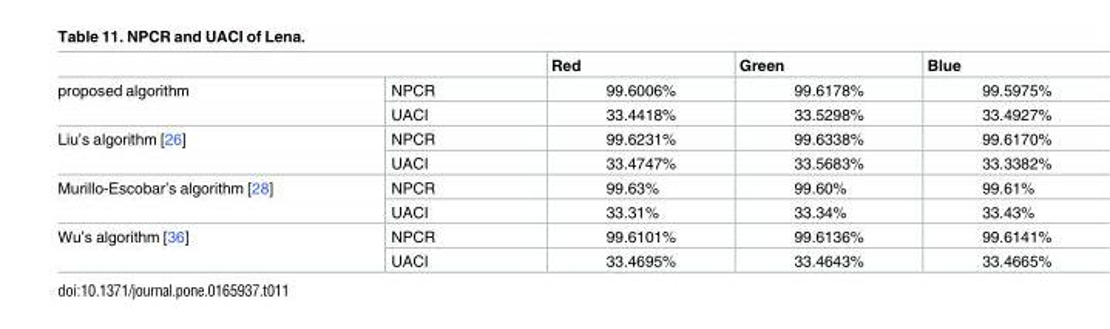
<table><thead><tr><td></td><td></td><td>Red</td><td>Green</td><td>Blue</td></tr></thead><tbody><tr><td rowspan="2">proposed algorithm</td><td>NPCR</td><td>99.6006%</td><td>99.6178%</td><td>99.5975%</td></tr><tr><td>UACI</td><td>33.4418%</td><td>33.5298%</td><td>33.4927%</td></tr><tr><td rowspan="2">Liu’s algorithm [26]</td><td>NPCR</td><td>99.6231%</td><td>99.6338%</td><td>99.6170%</td></tr><tr><td>UACI</td><td>33.4747%</td><td>33.5683%</td><td>33.3382%</td></tr><tr><td rowspan="2">Murillo-Escobar’s algorithm [28]</td><td>NPCR</td><td>99.63%</td><td>99.60%</td><td>99.61%</td></tr><tr><td>UACI</td><td>33.31%</td><td>33.34%</td><td>33.43%</td></tr><tr><td rowspan="2">Wu’s algorithm [36]</td><td>NPCR</td><td>99.6101%</td><td>99.6136%</td><td>99.6141%</td></tr><tr><td>UACI</td><td>33.4695%</td><td>33.4643%</td><td>33.4665%</td></tr></tbody></table>